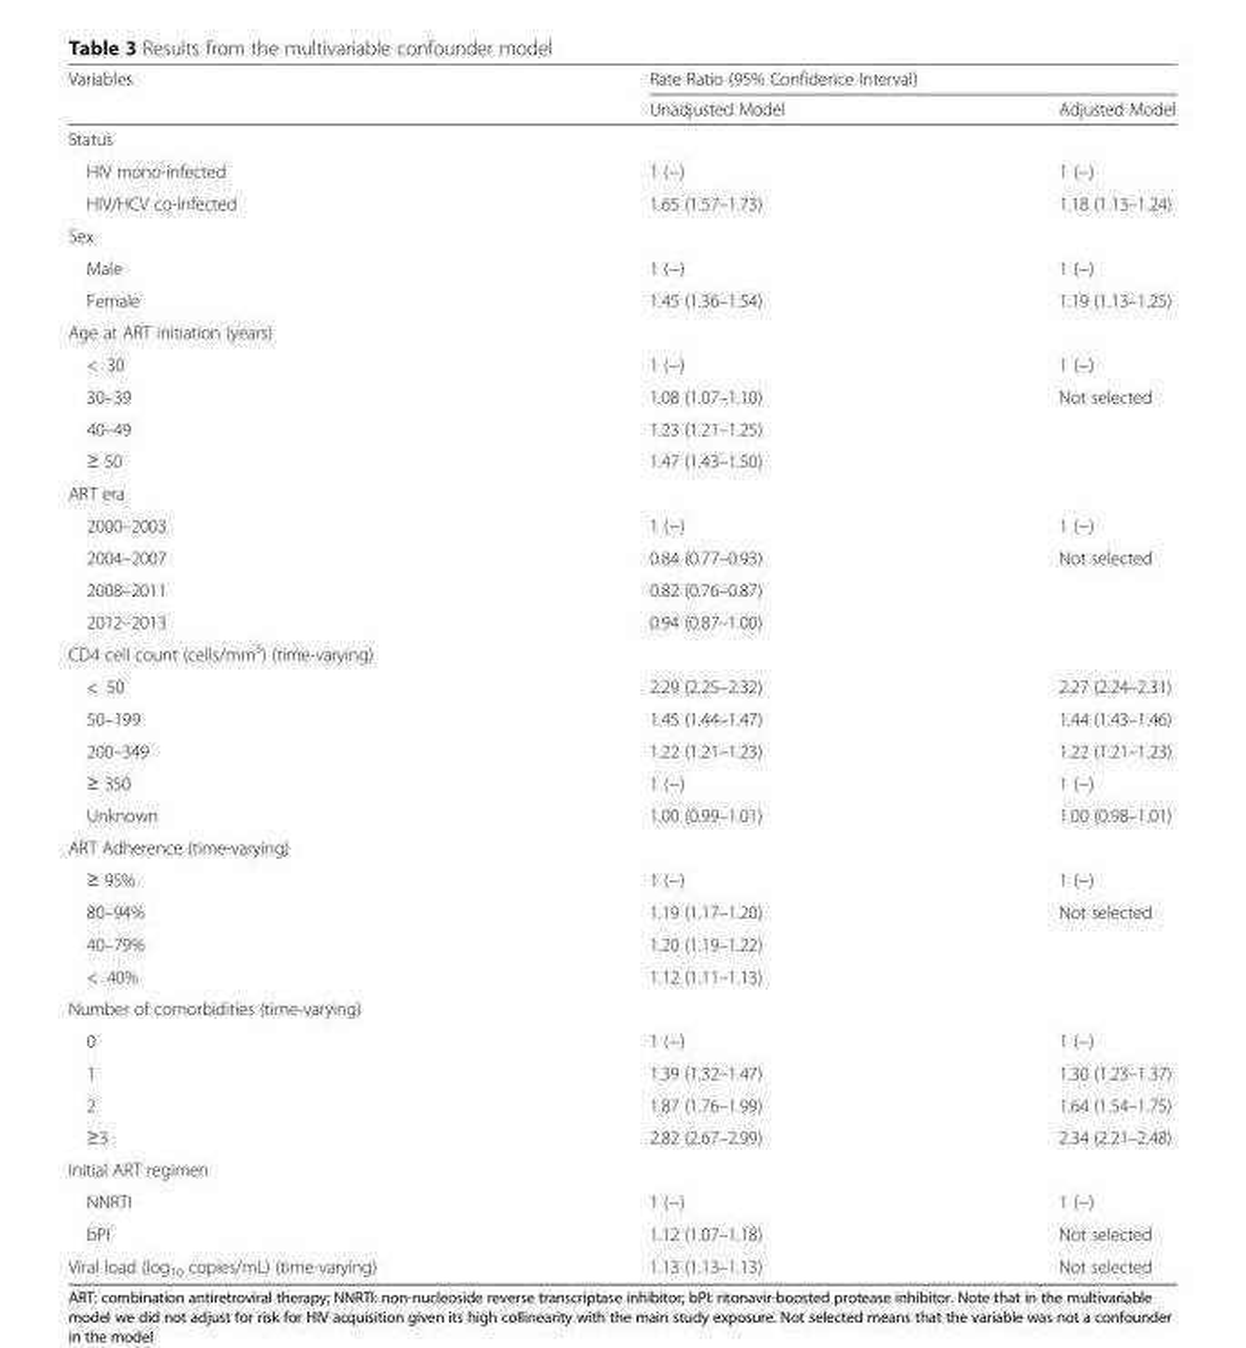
<table><thead><tr><td rowspan="2">Variables</td><td colspan="2">Rate Ratio (95% Confidence Interval)</td></tr><tr><td>Unadjusted Model</td><td>Adjusted Model</td></tr></thead><tbody><tr><td colspan="3">Status</td></tr><tr><td>HIV mono-infected</td><td>1 (−)</td><td>1 (−)</td></tr><tr><td>HIV/HCV co-infected</td><td>1.65 (1.57–1.73)</td><td>1.18 (1.13–1.24)</td></tr><tr><td colspan="3">Sex</td></tr><tr><td>Male</td><td>1 (−)</td><td>1 (−)</td></tr><tr><td>Female</td><td>1.45 (1.36–1.54)</td><td>1.19 (1.13–1.25)</td></tr><tr><td colspan="3">Age at ART initiation (years)</td></tr><tr><td>&lt; 30</td><td>1 (−)</td><td>1 (−)</td></tr><tr><td>30–39</td><td>1.08 (1.07–1.10)</td><td rowspan="3">Not selected</td></tr><tr><td>40–49</td><td>1.23 (1.21–1.25)</td></tr><tr><td>≥ 50</td><td>1.47 (1.43–1.50)</td></tr><tr><td colspan="3">ART era</td></tr><tr><td>2000–2003</td><td>1 (−)</td><td>1 (−)</td></tr><tr><td>2004–2007</td><td>0.84 (0.77–0.93)</td><td rowspan="3">Not selected</td></tr><tr><td>2008–2011</td><td>0.82 (0.76–0.87)</td></tr><tr><td>2012–2013</td><td>0.94 (0.87–1.00)</td></tr><tr><td colspan="3">CD4 cell count (cells/mm<sup>3</sup>) (time-varying)</td></tr><tr><td>&lt; 50</td><td>2.29 (2.25–2.32)</td><td>2.27 (2.24–2.31)</td></tr><tr><td>50–199</td><td>1.45 (1.44–1.47)</td><td>1.44 (1.43–1.46)</td></tr><tr><td>200–349</td><td>1.22 (1.21–1.23)</td><td>1.22 (1.21–1.23)</td></tr><tr><td>≥ 350</td><td>1 (−)</td><td>1 (−)</td></tr><tr><td>Unknown</td><td>1.00 (0.99–1.01)</td><td>1.00 (0.98–1.01)</td></tr><tr><td colspan="3">ART Adherence (time-varying)</td></tr><tr><td>≥ 95%</td><td>1 (−)</td><td>1 (−)</td></tr><tr><td>80–94%</td><td>1.19 (1.17–1.20)</td><td rowspan="3">Not selected</td></tr><tr><td>40–79%</td><td>1.20 (1.19–1.22)</td></tr><tr><td>&lt; 40%</td><td>1.12 (1.11–1.13)</td></tr><tr><td colspan="3">Number of comorbidities (time-varying)</td></tr><tr><td>0</td><td>1 (−)</td><td>1 (−)</td></tr><tr><td>1</td><td>1.39 (1.32–1.47)</td><td>1.30 (1.23–1.37)</td></tr><tr><td>2</td><td>1.87 (1.76–1.99)</td><td>1.64 (1.54–1.75)</td></tr><tr><td>≥3</td><td>2.82 (2.67–2.99)</td><td>2.34 (2.21–2.48)</td></tr><tr><td colspan="3">Initial ART regimen</td></tr><tr><td>NNRTI</td><td>1 (−)</td><td>1 (−)</td></tr><tr><td>bPI</td><td>1.12 (1.07–1.18)</td><td>Not selected</td></tr><tr><td>Viral load (log<sub>10</sub> copies/mL) (time-varying)</td><td>1.13 (1.13–1.13)</td><td>Not selected</td></tr></tbody></table>